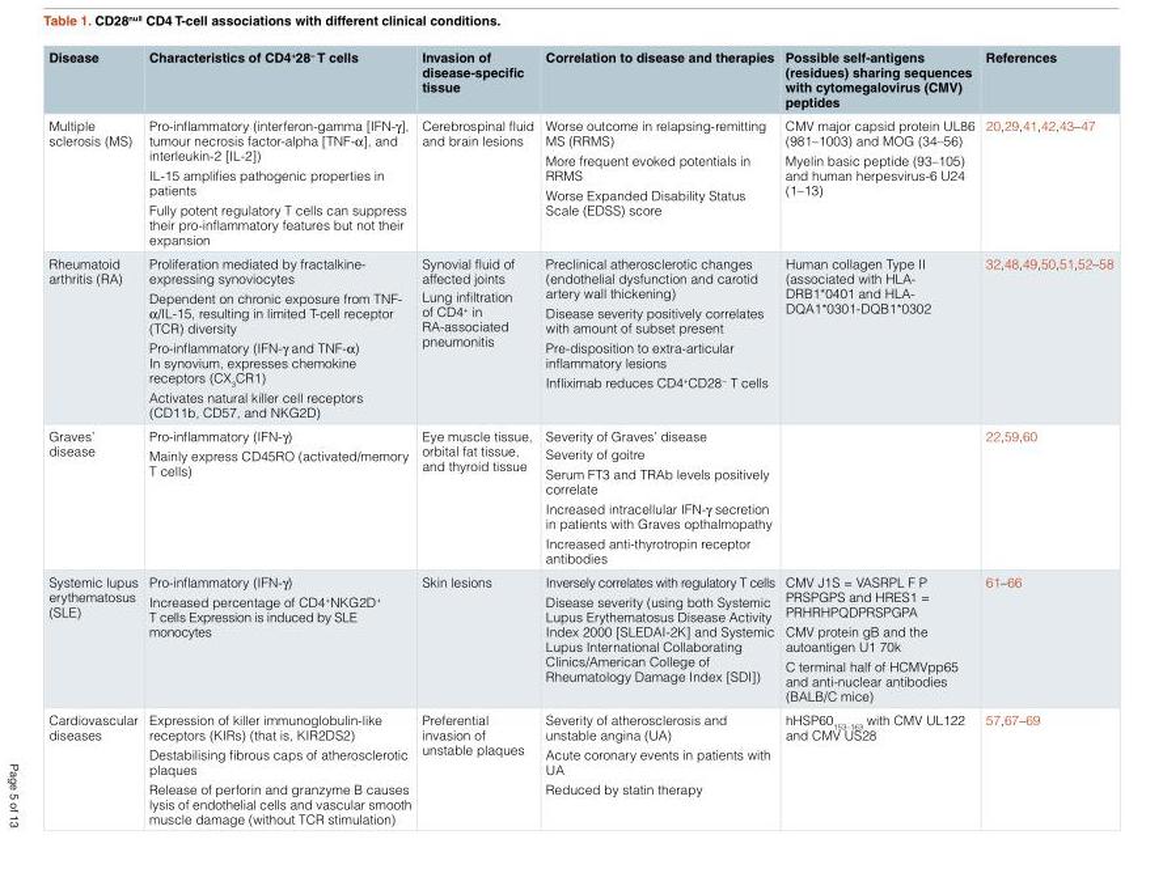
<table><thead><tr><td>Disease</td><td>Characteristics of CD4<sup>+</sup>28<sup>−</sup> T cells</td><td>Invasion of disease-specific tissue</td><td>Correlation to disease and therapies</td><td>Possible self-antigens (residues) sharing sequences with cytomegalovirus (CMV) peptides</td><td>References</td></tr></thead><tbody><tr><td>Multiple sclerosis (MS)</td><td>Pro-inflammatory (interferon-gamma [IFN-γ], tumour necrosis factor-alpha [TNF-α], and interleukin-2 [IL-2]) IL-15 amplifies pathogenic properties in patients Fully potent regulatory T cells can suppress their pro-inflammatory features but not their expansion</td><td>Cerebrospinal fluid and brain lesions</td><td>Worse outcome in relapsing-remitting MS (RRMS) More frequent evoked potentials in RRMS Worse Expanded Disability Status Scale (EDSS) score</td><td>CMV major capsid protein UL86 (981–1003) and MOG (34–56) Myelin basic peptide (93–105) and human herpesvirus-6 U24 (1–13)</td><td>20,29,41,42,43–47</td></tr><tr><td>Rheumatoid arthritis (RA)</td><td>Proliferation mediated by fractalkine- expressing synoviocytes Dependent on chronic exposure from TNF- α/IL-15, resulting in limited T-cell receptor (TCR) diversity Pro-inflammatory (IFN-γ and TNF-α) In synovium, expresses chemokine receptors (CX<sub>3</sub>CR1) Activates natural killer cell receptors (CD11b, CD57, and NKG2D)</td><td>Synovial fluid of affected joints Lung infiltration of CD4<sup>+</sup> in RA-associated pneumonitis</td><td>Preclinical atherosclerotic changes (endothelial dysfunction and carotid artery wall thickening) Disease severity positively correlates with amount of subset present Pre-disposition to extra-articular inflammatory lesions Infliximab reduces CD4<sup>+</sup>CD28<sup>−</sup> T cells</td><td>Human collagen Type II (associated with HLA- DRB1*0401 and HLA- DQA1*0301-DQB1*0302</td><td>32,48,49,50,51,52–58</td></tr><tr><td>Graves’ disease</td><td>Pro-inflammatory (IFN-γ) Mainly express CD45RO (activated/memory T cells)</td><td>Eye muscle tissue, orbital fat tissue, and thyroid tissue</td><td>Severity of Graves’ disease Severity of goitre Serum FT3 and TRAb levels positively correlate Increased intracellular IFN-γ secretion in patients with Graves opthalmopathy Increased anti-thyrotropin receptor antibodies</td><td></td><td>22,59,60</td></tr><tr><td>Systemic lupus erythematosus (SLE)</td><td>Pro-inflammatory (IFN-γ) Increased percentage of CD4<sup>+</sup>NKG2D<sup>+</sup> T cells Expression is induced by SLE monocytes</td><td>Skin lesions</td><td>Inversely correlates with regulatory T cells Disease severity (using both Systemic Lupus Erythematosus Disease Activity Index 2000 [SLEDAI-2K] and Systemic Lupus International Collaborating Clinics/American College of Rheumatology Damage Index [SDI])</td><td>CMV J1S = VASRPL F P PRSPGPS and HRES1 = PRHRHPQDPRSPGPA CMV protein gB and the autoantigen U1 70k C terminal half of HCMVpp65 and anti-nuclear antibodies (BALB/C mice)</td><td>61–66</td></tr><tr><td>Cardiovascular diseases</td><td>Expression of killer immunoglobulin-like receptors (KIRs) (that is, KIR2DS2) Destabilising fibrous caps of atherosclerotic plaques Release of perforin and granzyme B causes lysis of endothelial cells and vascular smooth muscle damage (without TCR stimulation)</td><td>Preferential invasion of unstable plaques</td><td>Severity of atherosclerosis and unstable angina (UA) Acute coronary events in patients with UA Reduced by statin therapy</td><td>hHSP60<sub>153–163</sub> with CMV UL122 and CMV US28</td><td>57,67–69</td></tr></tbody></table>